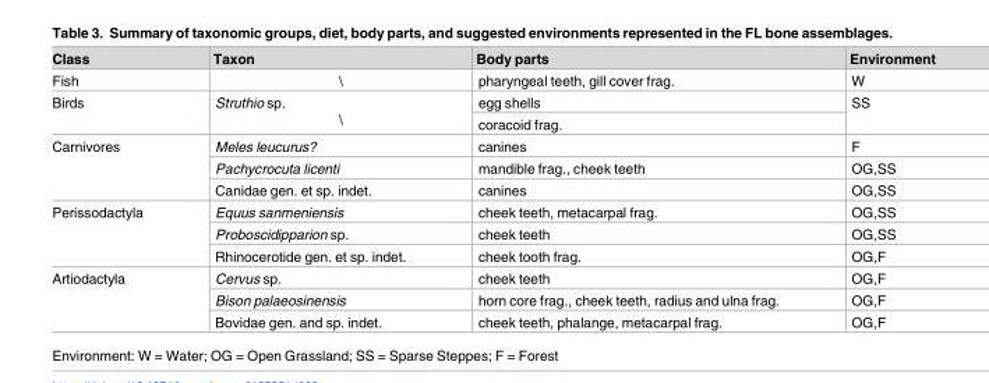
<table><thead><tr><td>Class</td><td>Taxon</td><td>Body parts</td><td>Environment</td></tr></thead><tbody><tr><td>Fish</td><td>\</td><td>pharyngeal teeth, gill cover frag.</td><td>W</td></tr><tr><td rowspan="2">Birds</td><td rowspan="2">Struthio sp. \</td><td>egg shells</td><td rowspan="2">SS</td></tr><tr><td>coracoid frag.</td></tr><tr><td rowspan="3">Carnivores</td><td>Meles leucurus?</td><td>canines</td><td>F</td></tr><tr><td>Pachycrocuta licenti</td><td>mandible frag., cheek teeth</td><td>OG,SS</td></tr><tr><td>Canidae gen. et sp. indet.</td><td>canines</td><td>OG,SS</td></tr><tr><td rowspan="3">Perissodactyla</td><td>Equus sanmeniensis</td><td>cheek teeth, metacarpal frag.</td><td>OG,SS</td></tr><tr><td>Proboscidipparion sp.</td><td>cheek teeth</td><td>OG,SS</td></tr><tr><td>Rhinocerotide gen. et sp. indet.</td><td>cheek tooth frag.</td><td>OG,F</td></tr><tr><td rowspan="3">Artiodactyla</td><td>Cervus sp.</td><td>cheek teeth</td><td>OG,F</td></tr><tr><td>Bison palaeosinensis</td><td>horn core frag., cheek teeth, radius and ulna frag.</td><td>OG,F</td></tr><tr><td>Bovidae gen. and sp. indet.</td><td>cheek teeth, phalange, metacarpal frag.</td><td>OG,F</td></tr></tbody></table>